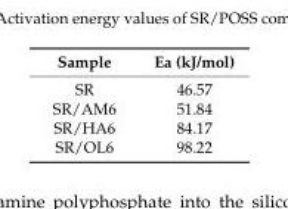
<table><thead><tr><td>Sample</td><td>Ea (kJ/mol)</td></tr></thead><tbody><tr><td>SR</td><td>46.57</td></tr><tr><td>SR/AM6</td><td>51.84</td></tr><tr><td>SR/HA6</td><td>84.17</td></tr><tr><td>SR/OL6</td><td>98.22</td></tr></tbody></table>